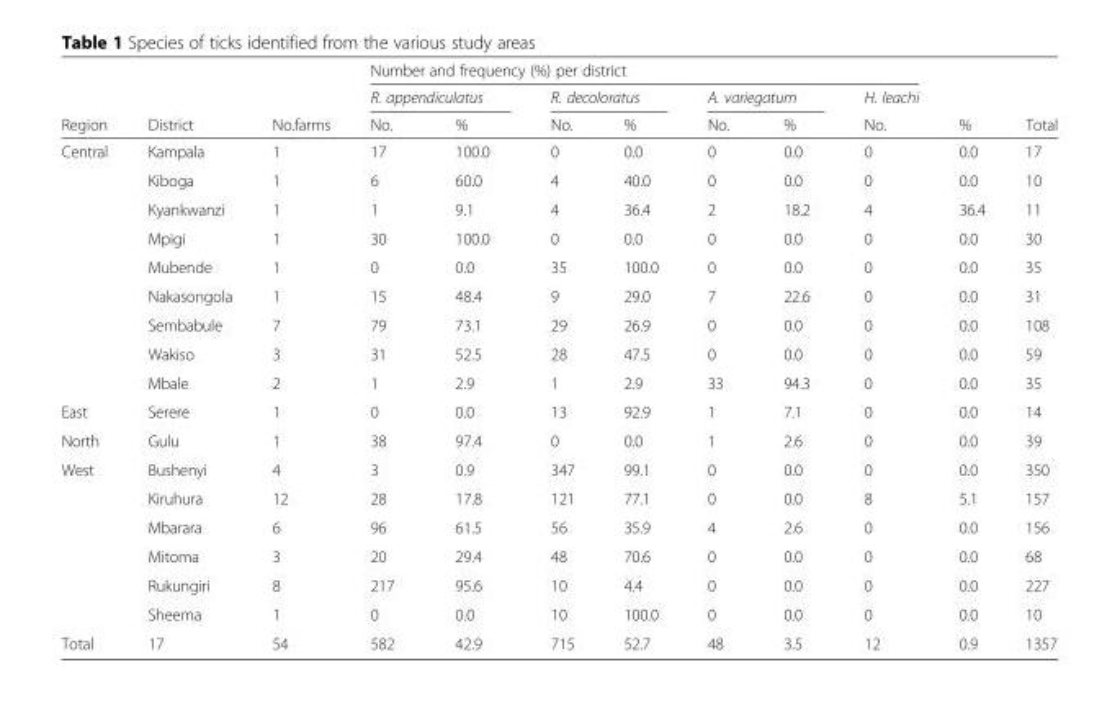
<table><thead><tr><td rowspan="3">Region</td><td rowspan="3">District</td><td rowspan="3">No.farms</td><td colspan="7">Number and frequency (%) per district</td><td rowspan="3">%</td><td rowspan="3">Total</td></tr><tr><td colspan="2">R. appendiculatus</td><td colspan="2">R. decoloratus</td><td colspan="2">A. variegatum</td><td rowspan="2">H. leachi No.</td></tr><tr><td>No.</td><td>%</td><td>No.</td><td>%</td><td>No.</td><td>%</td></tr></thead><tbody><tr><td rowspan="9">Central</td><td>Kampala</td><td>1</td><td>17</td><td>100.0</td><td>0</td><td>0.0</td><td>0</td><td>0.0</td><td>0</td><td>0.0</td><td>17</td></tr><tr><td>Kiboga</td><td>1</td><td>6</td><td>60.0</td><td>4</td><td>40.0</td><td>0</td><td>0.0</td><td>0</td><td>0.0</td><td>10</td></tr><tr><td>Kyankwanzi</td><td>1</td><td>1</td><td>9.1</td><td>4</td><td>36.4</td><td>2</td><td>18.2</td><td>4</td><td>36.4</td><td>11</td></tr><tr><td>Mpigi</td><td>1</td><td>30</td><td>100.0</td><td>0</td><td>0.0</td><td>0</td><td>0.0</td><td>0</td><td>0.0</td><td>30</td></tr><tr><td>Mubende</td><td>1</td><td>0</td><td>0.0</td><td>35</td><td>100.0</td><td>0</td><td>0.0</td><td>0</td><td>0.0</td><td>35</td></tr><tr><td>Nakasongola</td><td>1</td><td>15</td><td>48.4</td><td>9</td><td>29.0</td><td>7</td><td>22.6</td><td>0</td><td>0.0</td><td>31</td></tr><tr><td>Sembabule</td><td>7</td><td>79</td><td>73.1</td><td>29</td><td>26.9</td><td>0</td><td>0.0</td><td>0</td><td>0.0</td><td>108</td></tr><tr><td>Wakiso</td><td>3</td><td>31</td><td>52.5</td><td>28</td><td>47.5</td><td>0</td><td>0.0</td><td>0</td><td>0.0</td><td>59</td></tr><tr><td>Mbale</td><td>2</td><td>1</td><td>2.9</td><td>1</td><td>2.9</td><td>33</td><td>94.3</td><td>0</td><td>0.0</td><td>35</td></tr><tr><td>East</td><td>Serere</td><td>1</td><td>0</td><td>0.0</td><td>13</td><td>92.9</td><td>1</td><td>7.1</td><td>0</td><td>0.0</td><td>14</td></tr><tr><td>North</td><td>Gulu</td><td>1</td><td>38</td><td>97.4</td><td>0</td><td>0.0</td><td>1</td><td>2.6</td><td>0</td><td>0.0</td><td>39</td></tr><tr><td rowspan="6">West</td><td>Bushenyi</td><td>4</td><td>3</td><td>0.9</td><td>347</td><td>99.1</td><td>0</td><td>0.0</td><td>0</td><td>0.0</td><td>350</td></tr><tr><td>Kiruhura</td><td>12</td><td>28</td><td>17.8</td><td>121</td><td>77.1</td><td>0</td><td>0.0</td><td>8</td><td>5.1</td><td>157</td></tr><tr><td>Mbarara</td><td>6</td><td>96</td><td>61.5</td><td>56</td><td>35.9</td><td>4</td><td>2.6</td><td>0</td><td>0.0</td><td>156</td></tr><tr><td>Mitoma</td><td>3</td><td>20</td><td>29.4</td><td>48</td><td>70.6</td><td>0</td><td>0.0</td><td>0</td><td>0.0</td><td>68</td></tr><tr><td>Rukungiri</td><td>8</td><td>217</td><td>95.6</td><td>10</td><td>4.4</td><td>0</td><td>0.0</td><td>0</td><td>0.0</td><td>227</td></tr><tr><td>Sheema</td><td>1</td><td>0</td><td>0.0</td><td>10</td><td>100.0</td><td>0</td><td>0.0</td><td>0</td><td>0.0</td><td>10</td></tr><tr><td>Total</td><td>17</td><td>54</td><td>582</td><td>42.9</td><td>715</td><td>52.7</td><td>48</td><td>3.5</td><td>12</td><td>0.9</td><td>1357</td></tr></tbody></table>